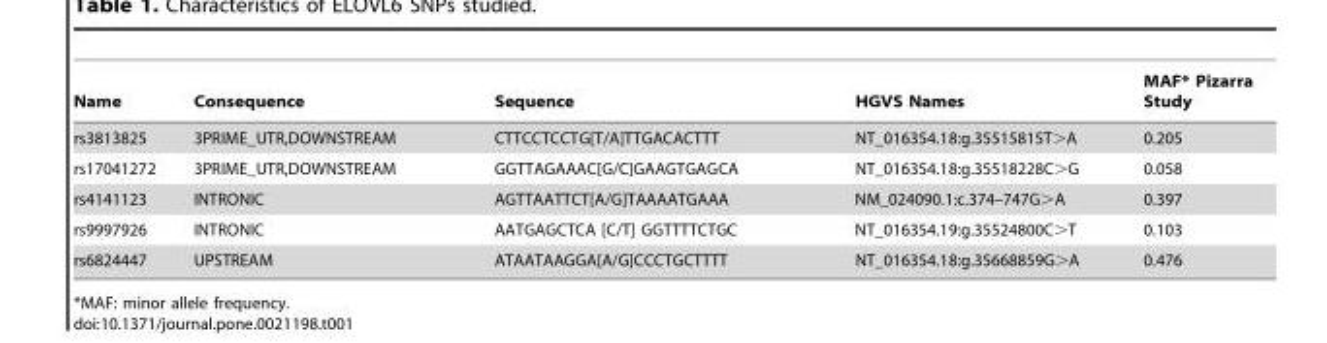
<table><thead><tr><td>Name</td><td>Consequence</td><td>Sequence</td><td>HGVS Names</td><td>MAF* Pizarra Study</td></tr></thead><tbody><tr><td>rs3813825</td><td>3PRIME_UTR,DOWNSTREAM</td><td>CTTCCTCCTG[T/A]TTGACACTTT</td><td>NT_016354.18:g.35515815T&gt;A</td><td>0.205</td></tr><tr><td>rs17041272</td><td>3PRIME_UTR,DOWNSTREAM</td><td>GGTTAGAAAC[G/C]GAAGTGAGCA</td><td>NT_016354.18:g.35518228C&gt;G</td><td>0.058</td></tr><tr><td>rs4141123</td><td>INTRONIC</td><td>AGTTAATTCT[A/G]TAAAATGAAA</td><td>NM_024090.1:c.374–747G&gt;A</td><td>0.397</td></tr><tr><td>rs9997926</td><td>INTRONIC</td><td>AATGAGCTCA [C/T] GGTTTTCTGC</td><td>NT_016354.19:g.35524800C&gt;T</td><td>0.103</td></tr><tr><td>rs6824447</td><td>UPSTREAM</td><td>ATAATAAGGA[A/G]CCCTGCTTTT</td><td>NT_016354.18:g.35668859G&gt;A</td><td>0.476</td></tr></tbody></table>